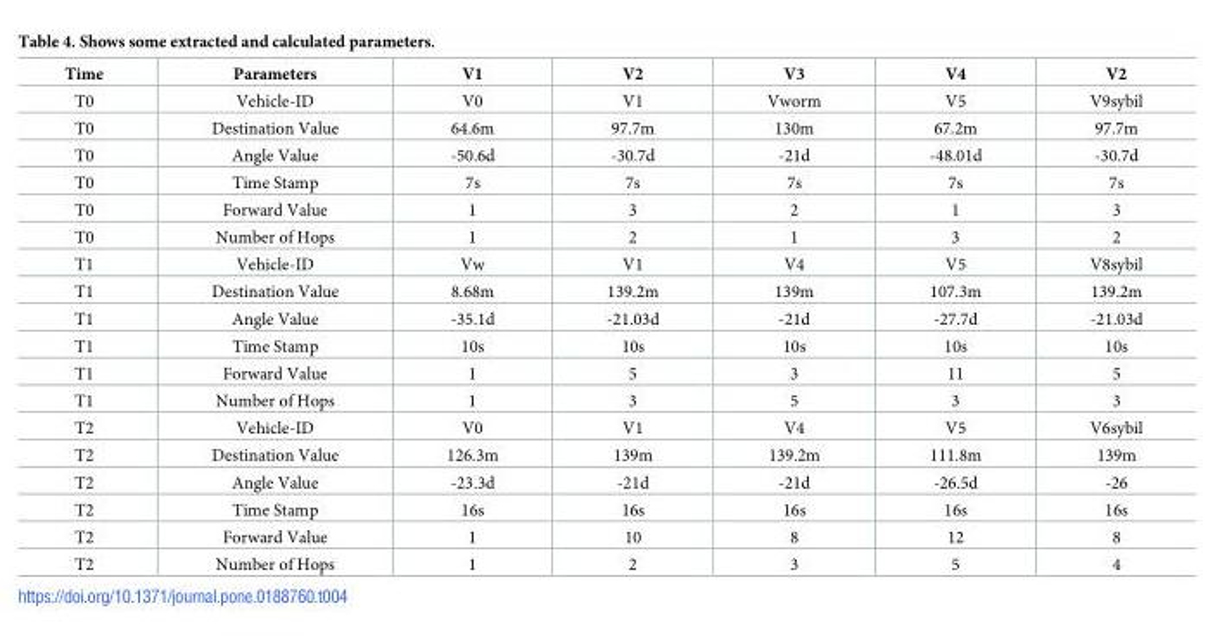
<table><thead><tr><td>Time</td><td>Parameters</td><td>V1</td><td>V2</td><td>V3</td><td>V4</td><td>V2</td></tr></thead><tbody><tr><td>T0</td><td>Vehicle-ID</td><td>V0</td><td>V1</td><td>Vworm</td><td>V5</td><td>V9sybil</td></tr><tr><td>T0</td><td>Destination Value</td><td>64.6m</td><td>97.7m</td><td>130m</td><td>67.2m</td><td>97.7m</td></tr><tr><td>T0</td><td>Angle Value</td><td>-50.6d</td><td>-30.7d</td><td>-21d</td><td>-48.01d</td><td>-30.7d</td></tr><tr><td>T0</td><td>Time Stamp</td><td>7s</td><td>7s</td><td>7s</td><td>7s</td><td>7s</td></tr><tr><td>T0</td><td>Forward Value</td><td>1</td><td>3</td><td>2</td><td>1</td><td>3</td></tr><tr><td>T0</td><td>Number of Hops</td><td>1</td><td>2</td><td>1</td><td>3</td><td>2</td></tr><tr><td>T1</td><td>Vehicle-ID</td><td>Vw</td><td>V1</td><td>V4</td><td>V5</td><td>V8sybil</td></tr><tr><td>T1</td><td>Destination Value</td><td>8.68m</td><td>139.2m</td><td>139m</td><td>107.3m</td><td>139.2m</td></tr><tr><td>T1</td><td>Angle Value</td><td>-35.1d</td><td>-21.03d</td><td>-21d</td><td>-27.7d</td><td>-21.03d</td></tr><tr><td>T1</td><td>Time Stamp</td><td>10s</td><td>10s</td><td>10s</td><td>10s</td><td>10s</td></tr><tr><td>T1</td><td>Forward Value</td><td>1</td><td>5</td><td>3</td><td>11</td><td>5</td></tr><tr><td>T1</td><td>Number of Hops</td><td>1</td><td>3</td><td>5</td><td>3</td><td>3</td></tr><tr><td>T2</td><td>Vehicle-ID</td><td>V0</td><td>V1</td><td>V4</td><td>V5</td><td>V6sybil</td></tr><tr><td>T2</td><td>Destination Value</td><td>126.3m</td><td>139m</td><td>139.2m</td><td>111.8m</td><td>139m</td></tr><tr><td>T2</td><td>Angle Value</td><td>-23.3d</td><td>-21d</td><td>-21d</td><td>-26.5d</td><td>-26</td></tr><tr><td>T2</td><td>Time Stamp</td><td>16s</td><td>16s</td><td>16s</td><td>16s</td><td>16s</td></tr><tr><td>T2</td><td>Forward Value</td><td>1</td><td>10</td><td>8</td><td>12</td><td>8</td></tr><tr><td>T2</td><td>Number of Hops</td><td>1</td><td>2</td><td>3</td><td>5</td><td>4</td></tr></tbody></table>